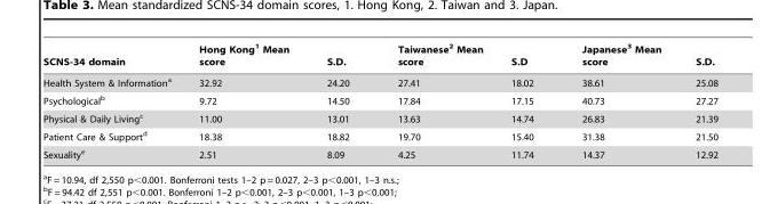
<table><thead><tr><td>SCNS-34 domain</td><td>Hong Kong<sup>1</sup> Mean score</td><td>S.D.</td><td>Taiwanese<sup>2</sup> Mean score</td><td>S.D</td><td>Japanese<sup>3</sup> Mean score</td><td>S.D.</td></tr></thead><tbody><tr><td>Health System &amp; Information<sup>a</sup></td><td>32.92</td><td>24.20</td><td>27.41</td><td>18.02</td><td>38.61</td><td>25.08</td></tr><tr><td>Psychological<sup>b</sup></td><td>9.72</td><td>14.50</td><td>17.84</td><td>17.15</td><td>40.73</td><td>27.27</td></tr><tr><td>Physical &amp; Daily Living<sup>c</sup></td><td>11.00</td><td>13.01</td><td>13.63</td><td>14.74</td><td>26.83</td><td>21.39</td></tr><tr><td>Patient Care &amp; Support<sup>d</sup></td><td>18.38</td><td>18.82</td><td>19.70</td><td>15.40</td><td>31.38</td><td>21.50</td></tr><tr><td>Sexuality<sup>e</sup></td><td>2.51</td><td>8.09</td><td>4.25</td><td>11.74</td><td>14.37</td><td>12.92</td></tr></tbody></table>